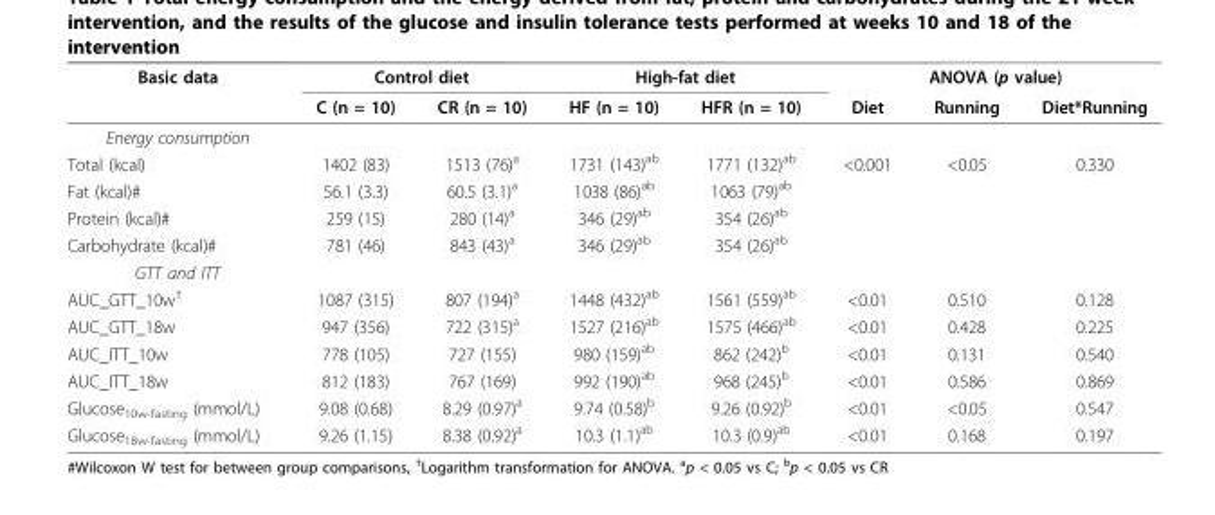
<table><thead><tr><td rowspan="2">Basic data</td><td colspan="2">Control diet</td><td colspan="2">High-fat diet</td><td colspan="3">ANOVA (p value)</td></tr><tr><td>C (n = 10)</td><td>CR (n = 10)</td><td>HF (n = 10)</td><td>HFR (n = 10)</td><td>Diet</td><td>Running</td><td>Diet*Running</td></tr></thead><tbody><tr><td colspan="8">Energy consumption</td></tr><tr><td>Total (kcal)</td><td>1402 (83)</td><td>1513 (76)<sup>a</sup></td><td>1731 (143)<sup>ab</sup></td><td>1771 (132)<sup>ab</sup></td><td>&lt;0.001</td><td>&lt;0.05</td><td>0.330</td></tr><tr><td>Fat (kcal)#</td><td>56.1 (3.3)</td><td>60.5 (3.1)<sup>a</sup></td><td>1038 (86)<sup>ab</sup></td><td>1063 (79)<sup>ab</sup></td><td></td><td></td><td></td></tr><tr><td>Protein (kcal)#</td><td>259 (15)</td><td>280 (14)<sup>a</sup></td><td>346 (29)<sup>ab</sup></td><td>354 (26)<sup>ab</sup></td><td></td><td></td><td></td></tr><tr><td>Carbohydrate (kcal)#</td><td>781 (46)</td><td>843 (43)<sup>a</sup></td><td>346 (29)<sup>ab</sup></td><td>354 (26)<sup>ab</sup></td><td></td><td></td><td></td></tr><tr><td colspan="8">GTT and ITT</td></tr><tr><td>AUC_GTT_10w<sup>†</sup></td><td>1087 (315)</td><td>807 (194)<sup>a</sup></td><td>1448 (432)<sup>ab</sup></td><td>1561 (559)<sup>ab</sup></td><td>&lt;0.01</td><td>0.510</td><td>0.128</td></tr><tr><td>AUC_GTT_18w</td><td>947 (356)</td><td>722 (315)<sup>a</sup></td><td>1527 (216)<sup>ab</sup></td><td>1575 (466)<sup>ab</sup></td><td>&lt;0.01</td><td>0.428</td><td>0.225</td></tr><tr><td>AUC_ITT_10w</td><td>778 (105)</td><td>727 (155)</td><td>980 (159)<sup>ab</sup></td><td>862 (242)<sup>b</sup></td><td>&lt;0.01</td><td>0.131</td><td>0.540</td></tr><tr><td>AUC_ITT_18w</td><td>812 (183)</td><td>767 (169)</td><td>992 (190)<sup>ab</sup></td><td>968 (245)<sup>b</sup></td><td>&lt;0.01</td><td>0.586</td><td>0.869</td></tr><tr><td>Glucose<sub>10w-fasting</sub> (mmol/L)</td><td>9.08 (0.68)</td><td>8.29 (0.97)<sup>a</sup></td><td>9.74 (0.58)<sup>b</sup></td><td>9.26 (0.92)<sup>b</sup></td><td>&lt;0.01</td><td>&lt;0.05</td><td>0.547</td></tr><tr><td>Glucose<sub>18w-fasting</sub> (mmol/L)</td><td>9.26 (1.15)</td><td>8.38 (0.92)<sup>a</sup></td><td>10.3 (1.1)<sup>ab</sup></td><td>10.3 (0.9)<sup>ab</sup></td><td>&lt;0.01</td><td>0.168</td><td>0.197</td></tr></tbody></table>